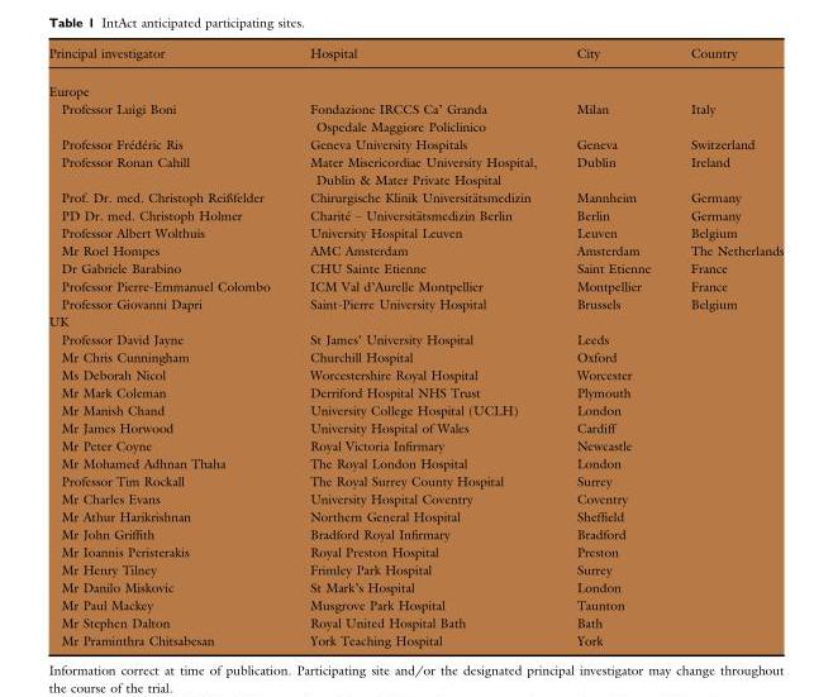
<table><thead><tr><td>Principal investigator</td><td>Hospital</td><td>City</td><td>Country</td></tr></thead><tbody><tr><td colspan="4">Europe</td></tr><tr><td>Professor Luigi Boni</td><td>Fondazione IRCCS Ca’ Granda Ospedale Maggiore Policlinico</td><td>Milan</td><td>Italy</td></tr><tr><td>Professor Fr�ed�eric Ris</td><td>Geneva University Hospitals</td><td>Geneva</td><td>Switzerland</td></tr><tr><td>Professor Ronan Cahill</td><td>Mater Misericordiae University Hospital, Dublin &amp; Mater Private Hospital</td><td>Dublin</td><td>Ireland</td></tr><tr><td>Prof. Dr. med. Christoph Reißfelder</td><td>Chirurgische Klinik Universit€atsmedizin</td><td>Mannheim</td><td>Germany</td></tr><tr><td>PD Dr. med. Christoph Holmer</td><td>Charit�e – Universit€atsmedizin Berlin</td><td>Berlin</td><td>Germany</td></tr><tr><td>Professor Albert Wolthuis</td><td>University Hospital Leuven</td><td>Leuven</td><td>Belgium</td></tr><tr><td>Mr Roel Hompes</td><td>AMC Amsterdam</td><td>Amsterdam</td><td>The Netherlands</td></tr><tr><td>Dr Gabriele Barabino</td><td>CHU Sainte Etienne</td><td>Saint Etienne</td><td>France</td></tr><tr><td>Professor Pierre-Emmanuel Colombo</td><td>ICM Val d’Aurelle Montpellier</td><td>Montpellier</td><td>France</td></tr><tr><td>Professor Giovanni Dapri</td><td>Saint-Pierre University Hospital</td><td>Brussels</td><td>Belgium</td></tr><tr><td colspan="4">UK</td></tr><tr><td>Professor David Jayne</td><td>St James’ University Hospital</td><td>Leeds</td><td></td></tr><tr><td>Mr Chris Cunningham</td><td>Churchill Hospital</td><td>Oxford</td><td></td></tr><tr><td>Ms Deborah Nicol</td><td>Worcestershire Royal Hospital</td><td>Worcester</td><td></td></tr><tr><td>Mr Mark Coleman</td><td>Derriford Hospital NHS Trust</td><td>Plymouth</td><td></td></tr><tr><td>Mr Manish Chand</td><td>University College Hospital (UCLH)</td><td>London</td><td></td></tr><tr><td>Mr James Horwood</td><td>University Hospital of Wales</td><td>Cardiff</td><td></td></tr><tr><td>Mr Peter Coyne</td><td>Royal Victoria Infirmary</td><td>Newcastle</td><td></td></tr><tr><td>Mr Mohamed Adhnan Thaha</td><td>The Royal London Hospital</td><td>London</td><td></td></tr><tr><td>Professor Tim Rockall</td><td>The Royal Surrey County Hospital</td><td>Surrey</td><td></td></tr><tr><td>Mr Charles Evans</td><td>University Hospital Coventry</td><td>Coventry</td><td></td></tr><tr><td>Mr Athur Harikrishnan</td><td>Northern General Hospital</td><td>Sheffield</td><td></td></tr><tr><td>Mr John Griffith</td><td>Bradford Royal Infirmary</td><td>Bradford</td><td></td></tr><tr><td>Mr Ioannis Peristerakis</td><td>Royal Preston Hospital</td><td>Preston</td><td></td></tr><tr><td>Mr Henry Tilney</td><td>Frimley Park Hospital</td><td>Surrey</td><td></td></tr><tr><td>Mr Danilo Miskovic</td><td>St Mark’s Hospital</td><td>London</td><td></td></tr><tr><td>Mr Paul Mackey</td><td>Musgrove Park Hospital</td><td>Taunton</td><td></td></tr><tr><td>Mr Stephen Dalton</td><td>Royal United Hospital Bath</td><td>Bath</td><td></td></tr><tr><td>Mr Praminthra Chitsabesan</td><td>York Teaching Hospital</td><td>York</td><td></td></tr></tbody></table>